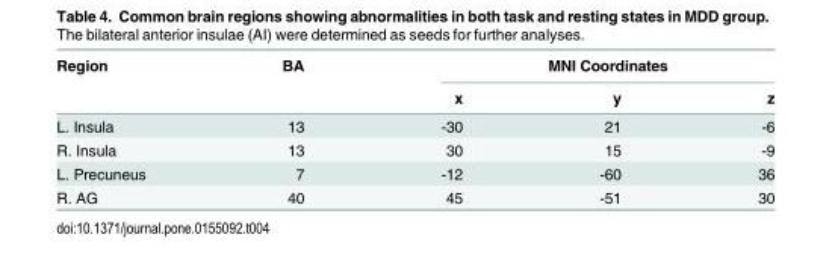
<table><thead><tr><td rowspan="2">Region</td><td rowspan="2">BA</td><td colspan="3">MNI Coordinates</td></tr><tr><td>x</td><td>y</td><td>z</td></tr></thead><tbody><tr><td>L. Insula</td><td>13</td><td>-30</td><td>21</td><td>-6</td></tr><tr><td>R. Insula</td><td>13</td><td>30</td><td>15</td><td>-9</td></tr><tr><td>L. Precuneus</td><td>7</td><td>-12</td><td>-60</td><td>36</td></tr><tr><td>R. AG</td><td>40</td><td>45</td><td>-51</td><td>30</td></tr></tbody></table>